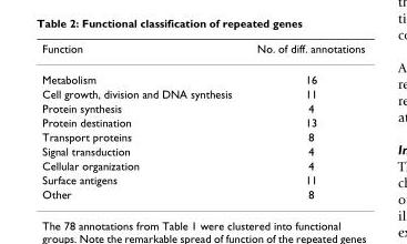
<table><thead><tr><td>Function</td><td>No. of diff. annotations</td></tr></thead><tbody><tr><td>Metabolism</td><td>16</td></tr><tr><td>Cell growth, division and DNA synthesis</td><td>11</td></tr><tr><td>Protein synthesis</td><td>4</td></tr><tr><td>Protein destination</td><td>13</td></tr><tr><td>Transport proteins</td><td>8</td></tr><tr><td>Signal transduction</td><td>4</td></tr><tr><td>Cellular organization</td><td>4</td></tr><tr><td>Surface antigens</td><td>11</td></tr><tr><td>Other</td><td>8</td></tr></tbody></table>